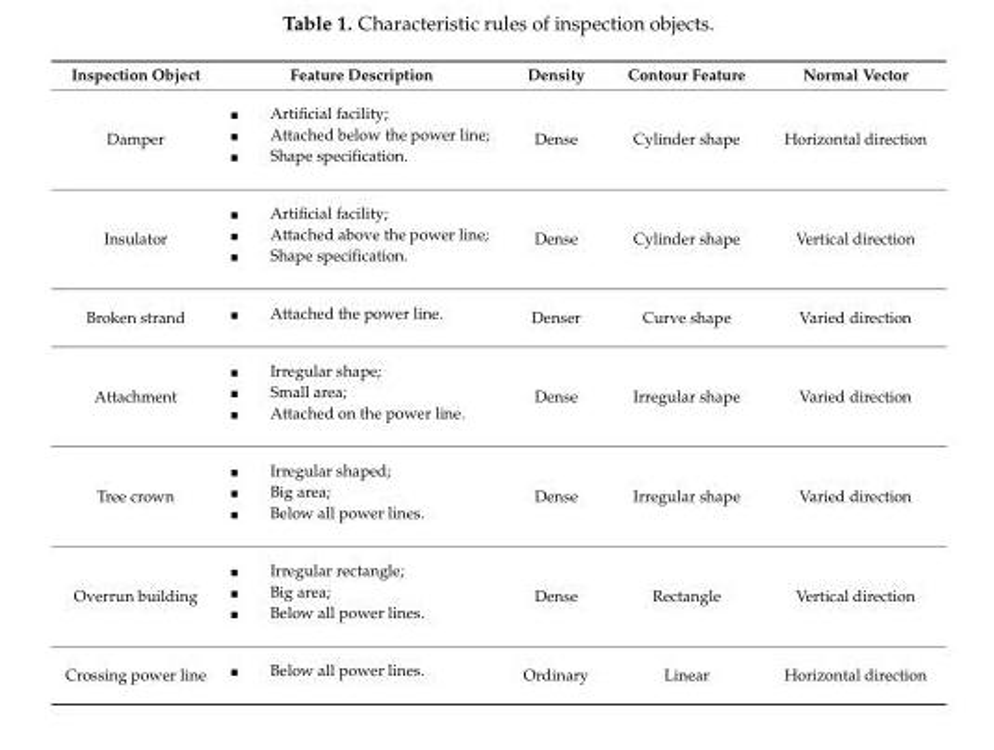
<table><thead><tr><td>Inspection Object</td><td>Feature Description</td><td>Density</td><td>Contour Feature</td><td>Normal Vector</td></tr></thead><tbody><tr><td>Damper</td><td>■ Artificial facility; ■ Attached below the power line; ■ Shape specification.</td><td>Dense</td><td>Cylinder shape</td><td>Horizontal direction</td></tr><tr><td>Insulator</td><td>■ Artificial facility; ■ Attached above the power line; ■ Shape specification.</td><td>Dense</td><td>Cylinder shape</td><td>Vertical direction</td></tr><tr><td>Broken strand</td><td>■ Attached the power line.</td><td>Denser</td><td>Curve shape</td><td>Varied direction</td></tr><tr><td>Attachment</td><td>■ Irregular shape; ■ Small area; ■ Attached on the power line.</td><td>Dense</td><td>Irregular shape</td><td>Varied direction</td></tr><tr><td>Tree crown</td><td>■ Irregular shaped; ■ Big area; ■ Below all power lines.</td><td>Dense</td><td>Irregular shape</td><td>Varied direction</td></tr><tr><td>Overrun building</td><td>■ Irregular rectangle; ■ Big area; ■ Below all power lines.</td><td>Dense</td><td>Rectangle</td><td>Vertical direction</td></tr><tr><td>Crossing power line</td><td>■ Below all power lines.</td><td>Ordinary</td><td>Linear</td><td>Horizontal direction</td></tr></tbody></table>